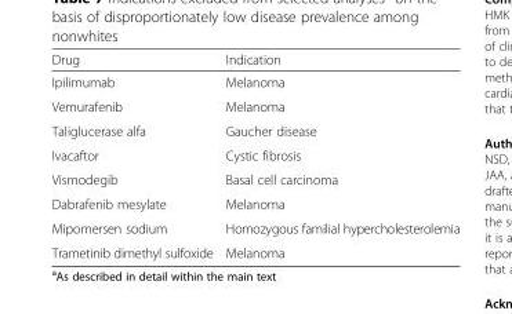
<table><thead><tr><td>Drug</td><td>Indication</td></tr></thead><tbody><tr><td>Ipilimumab</td><td>Melanoma</td></tr><tr><td>Vemurafenib</td><td>Melanoma</td></tr><tr><td>Taliglucerase alfa</td><td>Gaucher disease</td></tr><tr><td>Ivacaftor</td><td>Cystic fibrosis</td></tr><tr><td>Vismodegib</td><td>Basal cell carcinoma</td></tr><tr><td>Dabrafenib mesylate</td><td>Melanoma</td></tr><tr><td>Mipomersen sodium</td><td>Homozygous familial hypercholesterolemia</td></tr><tr><td>Trametinib dimethyl sulfoxide</td><td>Melanoma</td></tr></tbody></table>